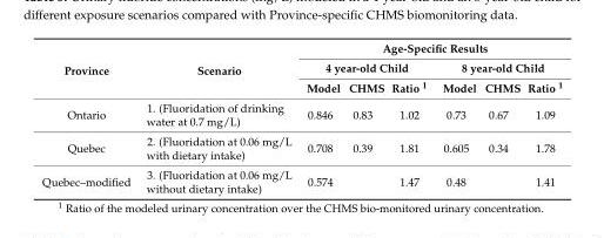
<table><thead><tr><td rowspan="3">Province</td><td rowspan="3">Scenario</td><td colspan="6">Age-Specific Results</td></tr><tr><td colspan="3">4 year-old Child</td><td colspan="3">8 year-old Child</td></tr><tr><td>Model</td><td>CHMS</td><td>Ratio <sup>1</sup></td><td>Model</td><td>CHMS</td><td>Ratio <sup>1</sup></td></tr></thead><tbody><tr><td>Ontario</td><td>1. (Fluoridation of drinking water at 0.7 mg/L)</td><td>0.846</td><td>0.83</td><td>1.02</td><td>0.73</td><td>0.67</td><td>1.09</td></tr><tr><td>Quebec</td><td>2. (Fluoridation at 0.06 mg/L with dietary intake)</td><td>0.708</td><td>0.39</td><td>1.81</td><td>0.605</td><td>0.34</td><td>1.78</td></tr><tr><td>Quebec–modified</td><td>3. (Fluoridation at 0.06 mg/L without dietary intake)</td><td>0.574</td><td></td><td>1.47</td><td>0.48</td><td></td><td>1.41</td></tr></tbody></table>